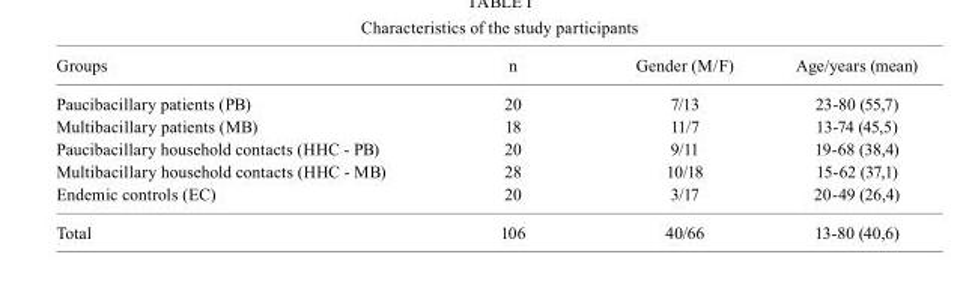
<table><thead><tr><td>Groups</td><td>n</td><td>Gender (M/F)</td><td>Age/years (mean)</td></tr></thead><tbody><tr><td>Paucibacillary patients (PB)</td><td>20</td><td>7/13</td><td>23-80 (55,7)</td></tr><tr><td>Multibacillary patients (MB)</td><td>18</td><td>11/7</td><td>13-74 (45,5)</td></tr><tr><td>Paucibacillary household contacts (HHC - PB)</td><td>20</td><td>9/11</td><td>19-68 (38,4)</td></tr><tr><td>Multibacillary household contacts (HHC - MB)</td><td>28</td><td>10/18</td><td>15-62 (37,1)</td></tr><tr><td>Endemic controls (EC)</td><td>20</td><td>3/17</td><td>20-49 (26,4)</td></tr><tr><td>Total</td><td>106</td><td>40/66</td><td>13-80 (40,6)</td></tr></tbody></table>